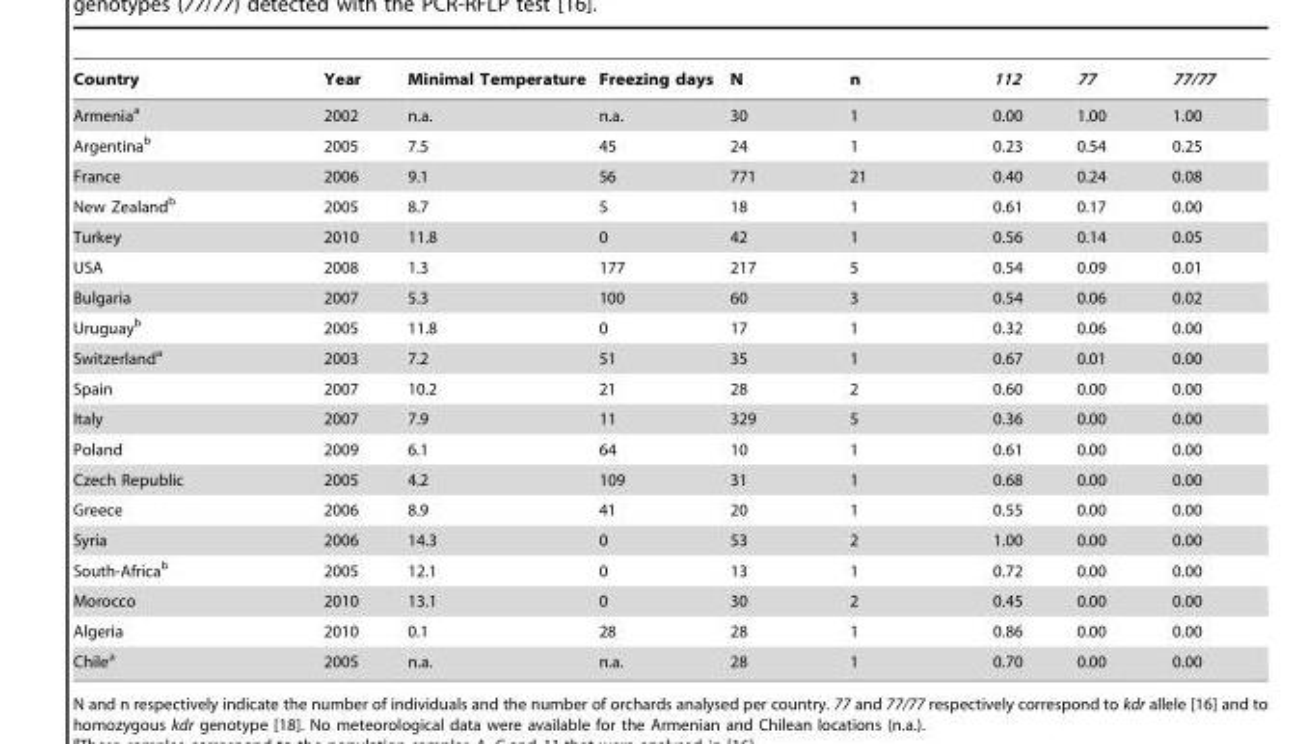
<table><thead><tr><td>Country</td><td>Year</td><td>Minimal Temperature</td><td>Freezing days</td><td>N</td><td>n</td><td>112</td><td>77</td><td>77/77</td></tr></thead><tbody><tr><td>Armenia<sup>a</sup></td><td>2002</td><td>n.a.</td><td>n.a.</td><td>30</td><td>1</td><td>0.00</td><td>1.00</td><td>1.00</td></tr><tr><td>Argentina<sup>b</sup></td><td>2005</td><td>7.5</td><td>45</td><td>24</td><td>1</td><td>0.23</td><td>0.54</td><td>0.25</td></tr><tr><td>France</td><td>2006</td><td>9.1</td><td>56</td><td>771</td><td>21</td><td>0.40</td><td>0.24</td><td>0.08</td></tr><tr><td>New Zealand<sup>b</sup></td><td>2005</td><td>8.7</td><td>5</td><td>18</td><td>1</td><td>0.61</td><td>0.17</td><td>0.00</td></tr><tr><td>Turkey</td><td>2010</td><td>11.8</td><td>0</td><td>42</td><td>1</td><td>0.56</td><td>0.14</td><td>0.05</td></tr><tr><td>USA</td><td>2008</td><td>1.3</td><td>177</td><td>217</td><td>5</td><td>0.54</td><td>0.09</td><td>0.01</td></tr><tr><td>Bulgaria</td><td>2007</td><td>5.3</td><td>100</td><td>60</td><td>3</td><td>0.54</td><td>0.06</td><td>0.02</td></tr><tr><td>Uruguay<sup>b</sup></td><td>2005</td><td>11.8</td><td>0</td><td>17</td><td>1</td><td>0.32</td><td>0.06</td><td>0.00</td></tr><tr><td>Switzerland<sup>a</sup></td><td>2003</td><td>7.2</td><td>51</td><td>35</td><td>1</td><td>0.67</td><td>0.01</td><td>0.00</td></tr><tr><td>Spain</td><td>2007</td><td>10.2</td><td>21</td><td>28</td><td>2</td><td>0.60</td><td>0.00</td><td>0.00</td></tr><tr><td>Italy</td><td>2007</td><td>7.9</td><td>11</td><td>329</td><td>5</td><td>0.36</td><td>0.00</td><td>0.00</td></tr><tr><td>Poland</td><td>2009</td><td>6.1</td><td>64</td><td>10</td><td>1</td><td>0.61</td><td>0.00</td><td>0.00</td></tr><tr><td>Czech Republic</td><td>2005</td><td>4.2</td><td>109</td><td>31</td><td>1</td><td>0.68</td><td>0.00</td><td>0.00</td></tr><tr><td>Greece</td><td>2006</td><td>8.9</td><td>41</td><td>20</td><td>1</td><td>0.55</td><td>0.00</td><td>0.00</td></tr><tr><td>Syria</td><td>2006</td><td>14.3</td><td>0</td><td>53</td><td>2</td><td>1.00</td><td>0.00</td><td>0.00</td></tr><tr><td>South-Africa<sup>b</sup></td><td>2005</td><td>12.1</td><td>0</td><td>13</td><td>1</td><td>0.72</td><td>0.00</td><td>0.00</td></tr><tr><td>Morocco</td><td>2010</td><td>13.1</td><td>0</td><td>30</td><td>2</td><td>0.45</td><td>0.00</td><td>0.00</td></tr><tr><td>Algeria</td><td>2010</td><td>0.1</td><td>28</td><td>28</td><td>1</td><td>0.86</td><td>0.00</td><td>0.00</td></tr><tr><td>Chile<sup>a</sup></td><td>2005</td><td>n.a.</td><td>n.a.</td><td>28</td><td>1</td><td>0.70</td><td>0.00</td><td>0.00</td></tr></tbody></table>